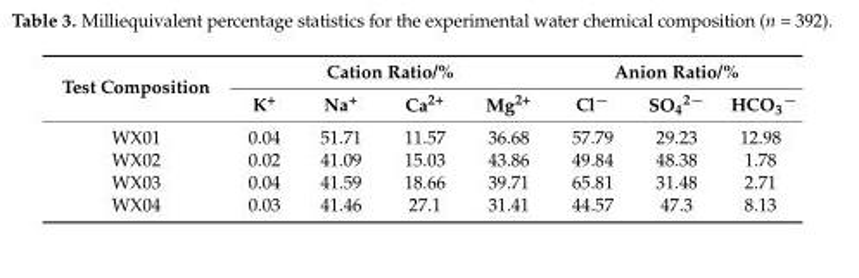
<table><thead><tr><td rowspan="2">Test Composition</td><td colspan="4">Cation Ratio/%</td><td colspan="3">Anion Ratio/%</td></tr><tr><td>K<sup>+</sup></td><td>Na<sup>+</sup></td><td>Ca<sup>2+</sup></td><td>Mg<sup>2+</sup></td><td>Cl<sup>−</sup></td><td>SO<sub>4</sub><sup>2−</sup></td><td>HCO<sub>3</sub><sup>−</sup></td></tr></thead><tbody><tr><td>WX01</td><td>0.04</td><td>51.71</td><td>11.57</td><td>36.68</td><td>57.79</td><td>29.23</td><td>12.98</td></tr><tr><td>WX02</td><td>0.02</td><td>41.09</td><td>15.03</td><td>43.86</td><td>49.84</td><td>48.38</td><td>1.78</td></tr><tr><td>WX03</td><td>0.04</td><td>41.59</td><td>18.66</td><td>39.71</td><td>65.81</td><td>31.48</td><td>2.71</td></tr><tr><td>WX04</td><td>0.03</td><td>41.46</td><td>27.1</td><td>31.41</td><td>44.57</td><td>47.3</td><td>8.13</td></tr></tbody></table>